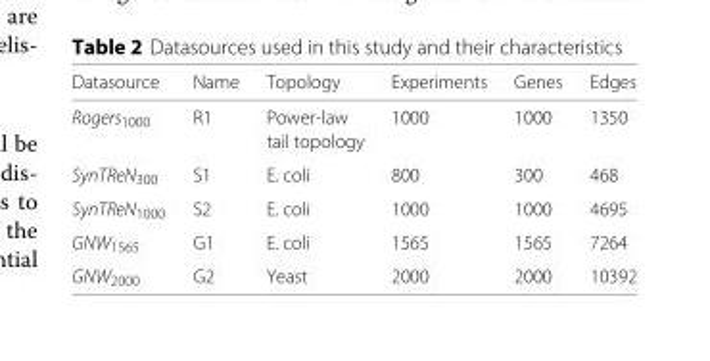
<table><thead><tr><td>Datasource</td><td>Name</td><td>Topology</td><td>Experiments</td><td>Genes</td><td>Edges</td></tr></thead><tbody><tr><td rowspan="2">Rogers<sub>1000</sub></td><td>R1</td><td>Power-law</td><td>1000</td><td>1000</td><td>1350</td></tr><tr><td></td><td>tail topology</td><td></td><td></td><td></td></tr><tr><td>SynTReN<sub>300</sub></td><td>S1</td><td>E. coli</td><td>800</td><td>300</td><td>468</td></tr><tr><td>SynTReN<sub>1000</sub></td><td>S2</td><td>E. coli</td><td>1000</td><td>1000</td><td>4695</td></tr><tr><td>GNW<sub>1565</sub></td><td>G1</td><td>E. coli</td><td>1565</td><td>1565</td><td>7264</td></tr><tr><td>GNW<sub>2000</sub></td><td>G2</td><td>Yeast</td><td>2000</td><td>2000</td><td>10392</td></tr></tbody></table>